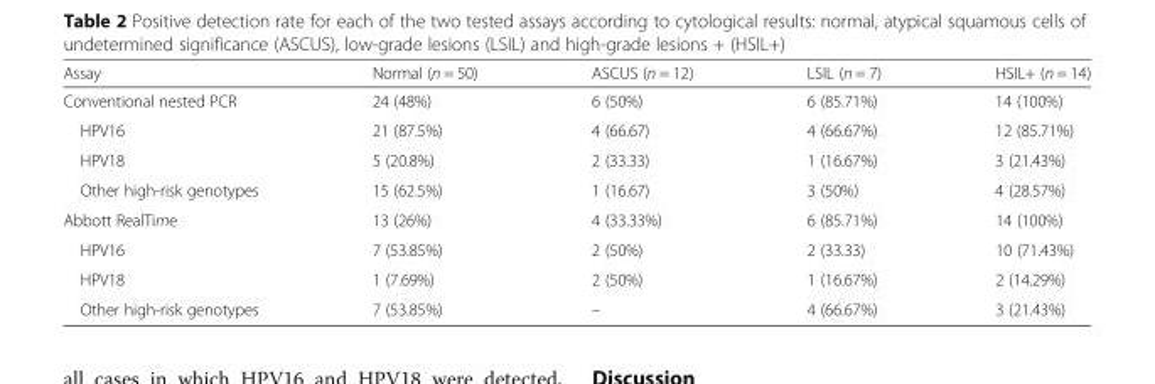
<table><thead><tr><td>Assay</td><td>Normal (n = 50)</td><td>ASCUS (n = 12)</td><td>LSIL (n = 7)</td><td>HSIL+ (n = 14)</td></tr></thead><tbody><tr><td>Conventional nested PCR</td><td>24 (48%)</td><td>6 (50%)</td><td>6 (85.71%)</td><td>14 (100%)</td></tr><tr><td>HPV16</td><td>21 (87.5%)</td><td>4 (66.67)</td><td>4 (66.67%)</td><td>12 (85.71%)</td></tr><tr><td>HPV18</td><td>5 (20.8%)</td><td>2 (33.33)</td><td>1 (16.67%)</td><td>3 (21.43%)</td></tr><tr><td>Other high-risk genotypes</td><td>15 (62.5%)</td><td>1 (16.67)</td><td>3 (50%)</td><td>4 (28.57%)</td></tr><tr><td>Abbott RealTime</td><td>13 (26%)</td><td>4 (33.33%)</td><td>6 (85.71%)</td><td>14 (100%)</td></tr><tr><td>HPV16</td><td>7 (53.85%)</td><td>2 (50%)</td><td>2 (33.33)</td><td>10 (71.43%)</td></tr><tr><td>HPV18</td><td>1 (7.69%)</td><td>2 (50%)</td><td>1 (16.67%)</td><td>2 (14.29%)</td></tr><tr><td>Other high-risk genotypes</td><td>7 (53.85%)</td><td>–</td><td>4 (66.67%)</td><td>3 (21.43%)</td></tr></tbody></table>